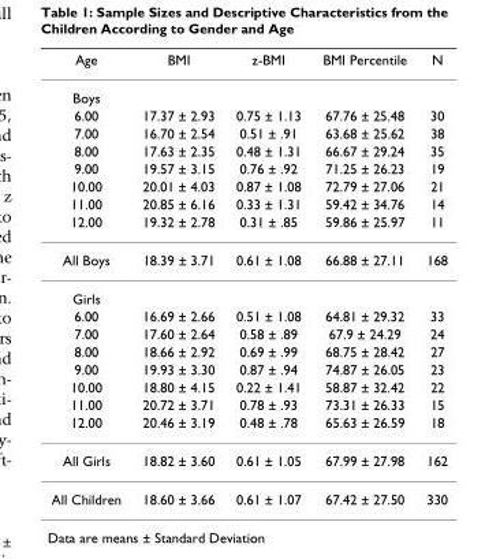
<table><thead><tr><td>Age</td><td>BMI</td><td>z-BMI</td><td>BMI Percentile</td><td>N</td></tr></thead><tbody><tr><td colspan="5">Boys</td></tr><tr><td>6.00</td><td>17.37 ± 2.93</td><td>0.75 ± 1.13</td><td>67.76 ± 25.48</td><td>30</td></tr><tr><td>7.00</td><td>16.70 ± 2.54</td><td>0.51 ± .91</td><td>63.68 ± 25.62</td><td>38</td></tr><tr><td>8.00</td><td>17.63 ± 2.35</td><td>0.48 ± 1.31</td><td>66.67 ± 29.24</td><td>35</td></tr><tr><td>9.00</td><td>19.57 ± 3.15</td><td>0.76 ± .92</td><td>71.25 ± 26.23</td><td>19</td></tr><tr><td>10.00</td><td>20.01 ± 4.03</td><td>0.87 ± 1.08</td><td>72.79 ± 27.06</td><td>21</td></tr><tr><td>11.00</td><td>20.85 ± 6.16</td><td>0.33 ± 1.31</td><td>59.42 ± 34.76</td><td>14</td></tr><tr><td>12.00</td><td>19.32 ± 2.78</td><td>0.31 ± .85</td><td>59.86 ± 25.97</td><td>11</td></tr><tr><td>All Boys</td><td>18.39 ± 3.71</td><td>0.61 ± 1.08</td><td>66.88 ± 27.11</td><td>168</td></tr><tr><td colspan="5">Girls</td></tr><tr><td>6.00</td><td>16.69 ± 2.66</td><td>0.51 ± 1.08</td><td>64.81 ± 29.32</td><td>33</td></tr><tr><td>7.00</td><td>17.60 ± 2.64</td><td>0.58 ± .89</td><td>67.9 ± 24.29</td><td>24</td></tr><tr><td>8.00</td><td>18.66 ± 2.92</td><td>0.69 ± .99</td><td>68.75 ± 28.42</td><td>27</td></tr><tr><td>9.00</td><td>19.93 ± 3.30</td><td>0.87 ± .94</td><td>74.87 ± 26.05</td><td>23</td></tr><tr><td>10.00</td><td>18.80 ± 4.15</td><td>0.22 ± 1.41</td><td>58.87 ± 32.42</td><td>22</td></tr><tr><td>11.00</td><td>20.72 ± 3.71</td><td>0.78 ± .93</td><td>73.31 ± 26.33</td><td>15</td></tr><tr><td>12.00</td><td>20.46 ± 3.19</td><td>0.48 ± .78</td><td>65.63 ± 26.59</td><td>18</td></tr><tr><td>All Girls</td><td>18.82 ± 3.60</td><td>0.61 ± 1.05</td><td>67.99 ± 27.98</td><td>162</td></tr><tr><td>All Children</td><td>18.60 ± 3.66</td><td>0.61 ± 1.07</td><td>67.42 ± 27.50</td><td>330</td></tr></tbody></table>